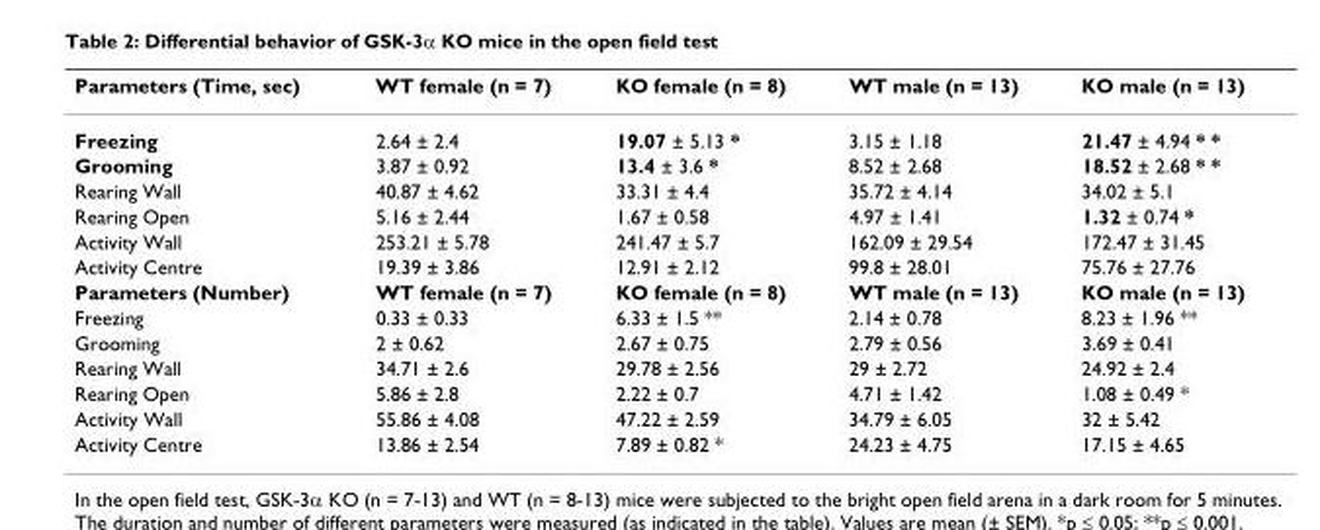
<table><thead><tr><td>Parameters (Time, sec)</td><td>WT female (n = 7)</td><td>KO female (n = 8)</td><td>WT male (n = 13)</td><td>KO male (n = 13)</td></tr></thead><tbody><tr><td>Freezing</td><td>2.64 ± 2.4</td><td>19.07 ± 5.13 *</td><td>3.15 ± 1.18</td><td>21.47 ± 4.94 * *</td></tr><tr><td>Grooming</td><td>3.87 ± 0.92</td><td>13.4 ± 3.6 *</td><td>8.52 ± 2.68</td><td>18.52 ± 2.68 * *</td></tr><tr><td>Rearing Wall</td><td>40.87 ± 4.62</td><td>33.31 ± 4.4</td><td>35.72 ± 4.14</td><td>34.02 ± 5.1</td></tr><tr><td>Rearing Open</td><td>5.16 ± 2.44</td><td>1.67 ± 0.58</td><td>4.97 ± 1.41</td><td>1.32 ± 0.74 *</td></tr><tr><td>Activity Wall</td><td>253.21 ± 5.78</td><td>241.47 ± 5.7</td><td>162.09 ± 29.54</td><td>172.47 ± 31.45</td></tr><tr><td>Activity Centre</td><td>19.39 ± 3.86</td><td>12.91 ± 2.12</td><td>99.8 ± 28.01</td><td>75.76 ± 27.76</td></tr><tr><td>Parameters (Number)</td><td>WT female (n = 7)</td><td>KO female (n = 8)</td><td>WT male (n = 13)</td><td>KO male (n = 13)</td></tr><tr><td>Freezing</td><td>0.33 ± 0.33</td><td>6.33 ± 1.5 **</td><td>2.14 ± 0.78</td><td>8.23 ± 1.96 **</td></tr><tr><td>Grooming</td><td>2 ± 0.62</td><td>2.67 ± 0.75</td><td>2.79 ± 0.56</td><td>3.69 ± 0.41</td></tr><tr><td>Rearing Wall</td><td>34.71 ± 2.6</td><td>29.78 ± 2.56</td><td>29 ± 2.72</td><td>24.92 ± 2.4</td></tr><tr><td>Rearing Open</td><td>5.86 ± 2.8</td><td>2.22 ± 0.7</td><td>4.71 ± 1.42</td><td>1.08 ± 0.49 *</td></tr><tr><td>Activity Wall</td><td>55.86 ± 4.08</td><td>47.22 ± 2.59</td><td>34.79 ± 6.05</td><td>32 ± 5.42</td></tr><tr><td>Activity Centre</td><td>13.86 ± 2.54</td><td>7.89 ± 0.82 *</td><td>24.23 ± 4.75</td><td>17.15 ± 4.65</td></tr></tbody></table>